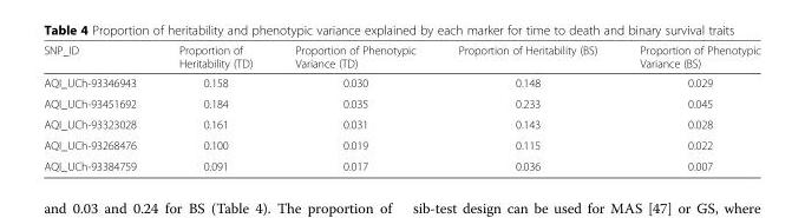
<table><thead><tr><td>SNP_ID</td><td>Proportion of Heritability (TD)</td><td>Proportion of Phenotypic Variance (TD)</td><td>Proportion of Heritability (BS)</td><td>Proportion of Phenotypic Variance (BS)</td></tr></thead><tbody><tr><td>AQI_UCh-93346943</td><td>0.158</td><td>0.030</td><td>0.148</td><td>0.029</td></tr><tr><td>AQI_UCh-93451692</td><td>0.184</td><td>0.035</td><td>0.233</td><td>0.045</td></tr><tr><td>AQI_UCh-93323028</td><td>0.161</td><td>0.031</td><td>0.143</td><td>0.028</td></tr><tr><td>AQI_UCh-93268476</td><td>0.100</td><td>0.019</td><td>0.115</td><td>0.022</td></tr><tr><td>AQI_UCh-93384759</td><td>0.091</td><td>0.017</td><td>0.036</td><td>0.007</td></tr></tbody></table>